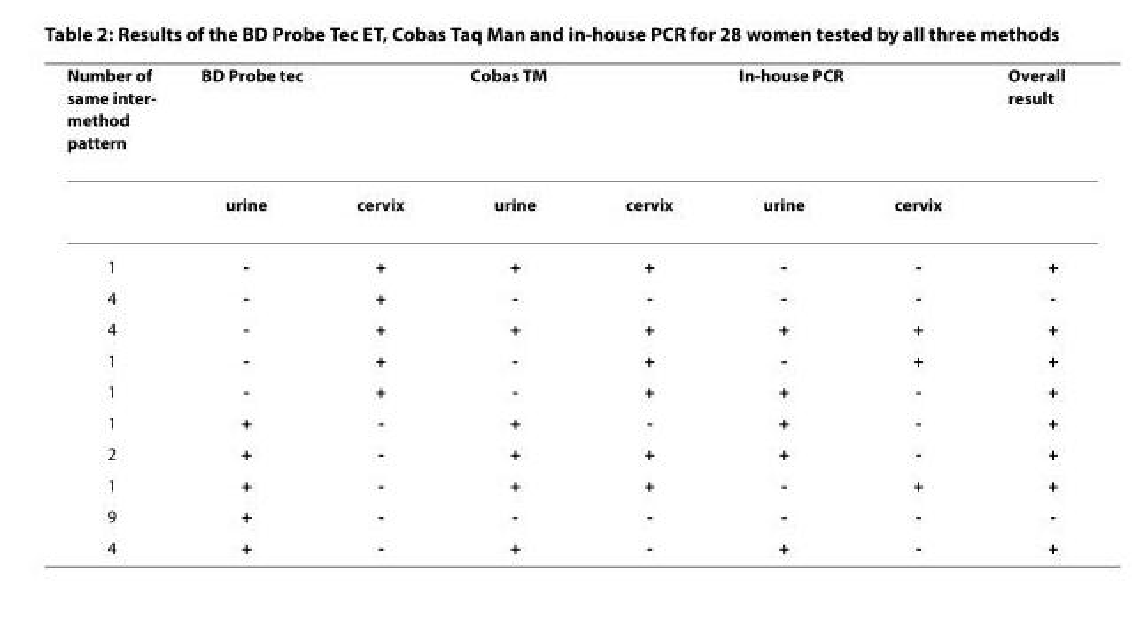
<table><thead><tr><td rowspan="2">Number of same inter- method pattern</td><td colspan="2">BD Probe tec</td><td colspan="2">Cobas TM</td><td colspan="2">In-house PCR</td><td rowspan="2">Overall result</td></tr><tr><td>urine</td><td>cervix</td><td>urine</td><td>cervix</td><td>urine</td><td>cervix</td></tr></thead><tbody><tr><td>1</td><td>-</td><td>+</td><td>+</td><td>+</td><td>-</td><td>-</td><td>+</td></tr><tr><td>4</td><td>-</td><td>+</td><td>-</td><td>-</td><td>-</td><td>-</td><td>-</td></tr><tr><td>4</td><td>-</td><td>+</td><td>+</td><td>+</td><td>+</td><td>+</td><td>+</td></tr><tr><td>1</td><td>-</td><td>+</td><td>-</td><td>+</td><td>-</td><td>+</td><td>+</td></tr><tr><td>1</td><td>-</td><td>+</td><td>-</td><td>+</td><td>+</td><td>-</td><td>+</td></tr><tr><td>1</td><td>+</td><td>-</td><td>+</td><td>-</td><td>+</td><td>-</td><td>+</td></tr><tr><td>2</td><td>+</td><td>-</td><td>+</td><td>+</td><td>+</td><td>-</td><td>+</td></tr><tr><td>1</td><td>+</td><td>-</td><td>+</td><td>+</td><td>-</td><td>+</td><td>+</td></tr><tr><td>9</td><td>+</td><td>-</td><td>-</td><td>-</td><td>-</td><td>-</td><td>-</td></tr><tr><td>4</td><td>+</td><td>-</td><td>+</td><td>-</td><td>+</td><td>-</td><td>+</td></tr></tbody></table>